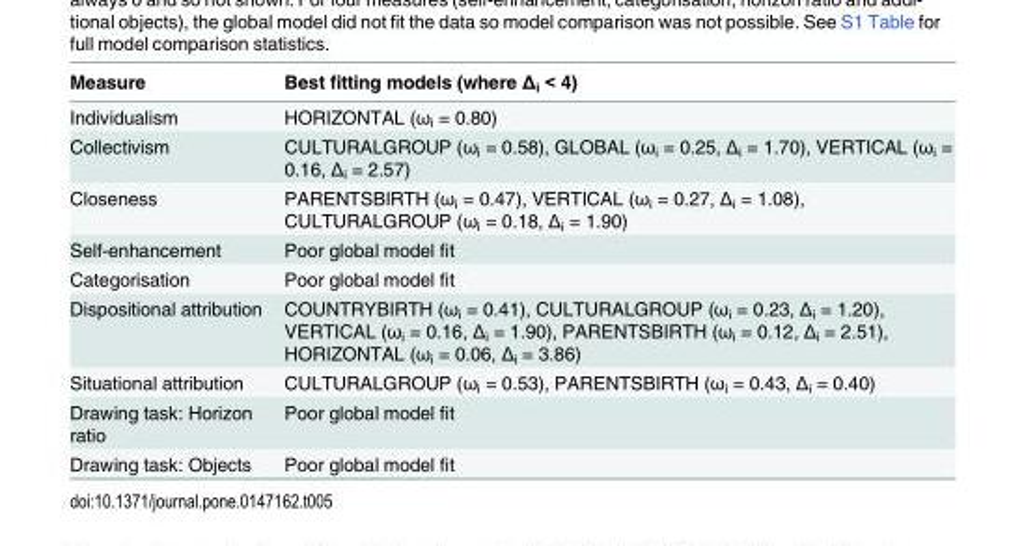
<table><thead><tr><td>Measure</td><td>Best fitting models (where Δi &lt; 4)</td></tr></thead><tbody><tr><td>Individualism</td><td>HORIZONTAL (ω<sub>i</sub> = 0.80)</td></tr><tr><td>Collectivism</td><td>CULTURALGROUP (ωi = 0.58), GLOBAL (ωi = 0.25, Δi = 1.70), VERTICAL (ωi = 0.16, Δi = 2.57)</td></tr><tr><td>Closeness</td><td>PARENTSBIRTH (ωi = 0.47), VERTICAL (ωi = 0.27, Δi = 1.08), CULTURALGROUP (ωi = 0.18, Δi = 1.90)</td></tr><tr><td>Self-enhancement</td><td>Poor global model fit</td></tr><tr><td>Categorisation</td><td>Poor global model fit</td></tr><tr><td>Dispositional attribution</td><td>COUNTRYBIRTH (ωi = 0.41), CULTURALGROUP (ωi = 0.23, Δi = 1.20), VERTICAL (ωi = 0.16, Δi = 1.90), PARENTSBIRTH (ωi = 0.12, Δi = 2.51), HORIZONTAL (ωi = 0.06, Δi = 3.86)</td></tr><tr><td>Situational attribution</td><td>CULTURALGROUP (ωi = 0.53), PARENTSBIRTH (ωi = 0.43, Δi = 0.40)</td></tr><tr><td>Drawing task: Horizon ratio</td><td>Poor global model fit</td></tr><tr><td>Drawing task: Objects</td><td>Poor global model fit</td></tr></tbody></table>